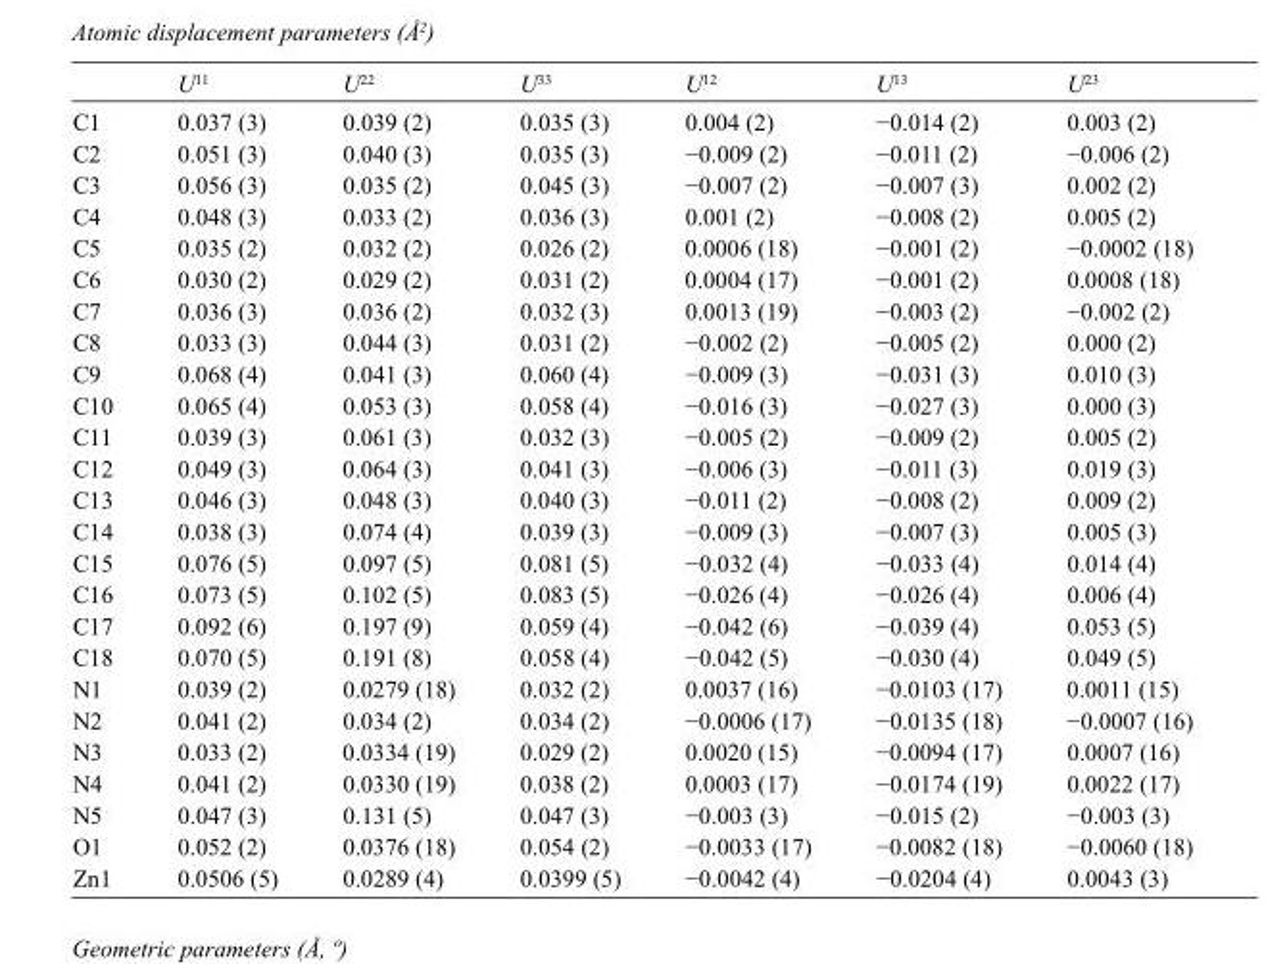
<table><thead><tr><td></td><td>U<sup>11</sup></td><td>U<sup>22</sup></td><td>U<sup>33</sup></td><td>U<sup>12</sup></td><td>U<sup>13</sup></td><td>U<sup>23</sup></td></tr></thead><tbody><tr><td>C1</td><td>0.037 (3)</td><td>0.039 (2)</td><td>0.035 (3)</td><td>0.004 (2)</td><td>−0.014 (2)</td><td>0.003 (2)</td></tr><tr><td>C2</td><td>0.051 (3)</td><td>0.040 (3)</td><td>0.035 (3)</td><td>−0.009 (2)</td><td>−0.011 (2)</td><td>−0.006 (2)</td></tr><tr><td>C3</td><td>0.056 (3)</td><td>0.035 (2)</td><td>0.045 (3)</td><td>−0.007 (2)</td><td>−0.007 (3)</td><td>0.002 (2)</td></tr><tr><td>C4</td><td>0.048 (3)</td><td>0.033 (2)</td><td>0.036 (3)</td><td>0.001 (2)</td><td>−0.008 (2)</td><td>0.005 (2)</td></tr><tr><td>C5</td><td>0.035 (2)</td><td>0.032 (2)</td><td>0.026 (2)</td><td>0.0006 (18)</td><td>−0.001 (2)</td><td>−0.0002 (18)</td></tr><tr><td>C6</td><td>0.030 (2)</td><td>0.029 (2)</td><td>0.031 (2)</td><td>0.0004 (17)</td><td>−0.001 (2)</td><td>0.0008 (18)</td></tr><tr><td>C7</td><td>0.036 (3)</td><td>0.036 (2)</td><td>0.032 (3)</td><td>0.0013 (19)</td><td>−0.003 (2)</td><td>−0.002 (2)</td></tr><tr><td>C8</td><td>0.033 (3)</td><td>0.044 (3)</td><td>0.031 (2)</td><td>−0.002 (2)</td><td>−0.005 (2)</td><td>0.000 (2)</td></tr><tr><td>C9</td><td>0.068 (4)</td><td>0.041 (3)</td><td>0.060 (4)</td><td>−0.009 (3)</td><td>−0.031 (3)</td><td>0.010 (3)</td></tr><tr><td>C10</td><td>0.065 (4)</td><td>0.053 (3)</td><td>0.058 (4)</td><td>−0.016 (3)</td><td>−0.027 (3)</td><td>0.000 (3)</td></tr><tr><td>C11</td><td>0.039 (3)</td><td>0.061 (3)</td><td>0.032 (3)</td><td>−0.005 (2)</td><td>−0.009 (2)</td><td>0.005 (2)</td></tr><tr><td>C12</td><td>0.049 (3)</td><td>0.064 (3)</td><td>0.041 (3)</td><td>−0.006 (3)</td><td>−0.011 (3)</td><td>0.019 (3)</td></tr><tr><td>C13</td><td>0.046 (3)</td><td>0.048 (3)</td><td>0.040 (3)</td><td>−0.011 (2)</td><td>−0.008 (2)</td><td>0.009 (2)</td></tr><tr><td>C14</td><td>0.038 (3)</td><td>0.074 (4)</td><td>0.039 (3)</td><td>−0.009 (3)</td><td>−0.007 (3)</td><td>0.005 (3)</td></tr><tr><td>C15</td><td>0.076 (5)</td><td>0.097 (5)</td><td>0.081 (5)</td><td>−0.032 (4)</td><td>−0.033 (4)</td><td>0.014 (4)</td></tr><tr><td>C16</td><td>0.073 (5)</td><td>0.102 (5)</td><td>0.083 (5)</td><td>−0.026 (4)</td><td>−0.026 (4)</td><td>0.006 (4)</td></tr><tr><td>C17</td><td>0.092 (6)</td><td>0.197 (9)</td><td>0.059 (4)</td><td>−0.042 (6)</td><td>−0.039 (4)</td><td>0.053 (5)</td></tr><tr><td>C18</td><td>0.070 (5)</td><td>0.191 (8)</td><td>0.058 (4)</td><td>−0.042 (5)</td><td>−0.030 (4)</td><td>0.049 (5)</td></tr><tr><td>N1</td><td>0.039 (2)</td><td>0.0279 (18)</td><td>0.032 (2)</td><td>0.0037 (16)</td><td>−0.0103 (17)</td><td>0.0011 (15)</td></tr><tr><td>N2</td><td>0.041 (2)</td><td>0.034 (2)</td><td>0.034 (2)</td><td>−0.0006 (17)</td><td>−0.0135 (18)</td><td>−0.0007 (16)</td></tr><tr><td>N3</td><td>0.033 (2)</td><td>0.0334 (19)</td><td>0.029 (2)</td><td>0.0020 (15)</td><td>−0.0094 (17)</td><td>0.0007 (16)</td></tr><tr><td>N4</td><td>0.041 (2)</td><td>0.0330 (19)</td><td>0.038 (2)</td><td>0.0003 (17)</td><td>−0.0174 (19)</td><td>0.0022 (17)</td></tr><tr><td>N5</td><td>0.047 (3)</td><td>0.131 (5)</td><td>0.047 (3)</td><td>−0.003 (3)</td><td>−0.015 (2)</td><td>−0.003 (3)</td></tr><tr><td>O1</td><td>0.052 (2)</td><td>0.0376 (18)</td><td>0.054 (2)</td><td>−0.0033 (17)</td><td>−0.0082 (18)</td><td>−0.0060 (18)</td></tr><tr><td>Zn1</td><td>0.0506 (5)</td><td>0.0289 (4)</td><td>0.0399 (5)</td><td>−0.0042 (4)</td><td>−0.0204 (4)</td><td>0.0043 (3)</td></tr></tbody></table>